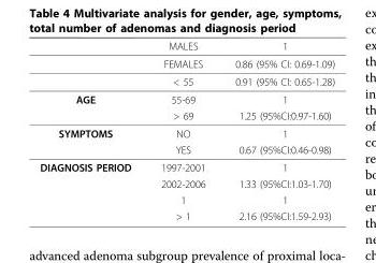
<table><thead><tr><td></td><td>MALES</td><td>1</td></tr></thead><tbody><tr><td></td><td>FEMALES</td><td>0.86 (95% CI: 0.69-1.09)</td></tr><tr><td></td><td>&lt; 55</td><td>0.91 (95% CI: 0.65-1.28)</td></tr><tr><td rowspan="2">AGE</td><td>55-69</td><td>1</td></tr><tr><td>&gt; 69</td><td>1.25 (95%CI:0.97-1.60)</td></tr><tr><td rowspan="2">SYMPTOMS</td><td>NO</td><td>1</td></tr><tr><td>YES</td><td>0.67 (95%CI:0.46-0.98)</td></tr><tr><td rowspan="4">DIAGNOSIS PERIOD</td><td>1997-2001</td><td>1</td></tr><tr><td>2002-2006</td><td>1.33 (95%CI:1.03-1.70)</td></tr><tr><td>1</td><td>1</td></tr><tr><td>&gt; 1</td><td>2.16 (95%CI:1.59-2.93)</td></tr></tbody></table>